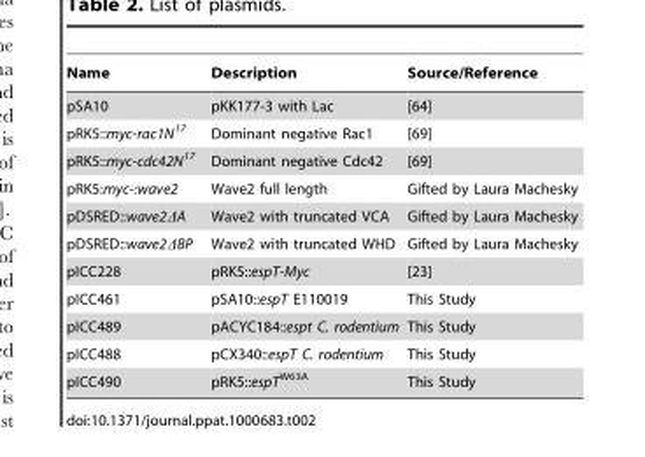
<table><thead><tr><td>Name</td><td>Description</td><td>Source/Reference</td></tr></thead><tbody><tr><td>pSA10</td><td>pKK177-3 with Lac</td><td>[64]</td></tr><tr><td>pRK5::myc-rac1N<sup>17</sup></td><td>Dominant negative Rac1</td><td>[69]</td></tr><tr><td>pRK5::myc-cdc42N<sup>17</sup></td><td>Dominant negative Cdc42</td><td>[69]</td></tr><tr><td>pRK5:myc-:wave2</td><td>Wave2 full length</td><td>Gifted by Laura Machesky</td></tr><tr><td>pDSRED::wave2ΔA</td><td>Wave2 with truncated VCA</td><td>Gifted by Laura Machesky</td></tr><tr><td>pDSRED::wave2ΔBP</td><td>Wave2 with truncated WHD</td><td>Gifted by Laura Machesky</td></tr><tr><td>pICC228</td><td>pRK5::espT-Myc</td><td>[23]</td></tr><tr><td>pICC461</td><td>pSA10::espT E110019</td><td>This Study</td></tr><tr><td>pICC489</td><td>pACYC184::espt C. rodentium</td><td>This Study</td></tr><tr><td>pICC488</td><td>pCX340::espT C. rodentium</td><td>This Study</td></tr><tr><td>pICC490</td><td>pRK5::espT<sup>W63A</sup></td><td>This Study</td></tr></tbody></table>